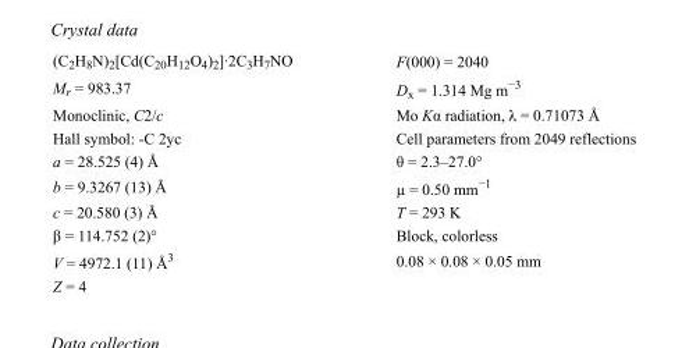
<table><tbody><tr><td>(C<sub>2</sub>H<sub>8</sub>N)<sub>2</sub>[Cd(C<sub>20</sub>H<sub>12</sub>O<sub>4</sub>)<sub>2</sub>]·2C<sub>3</sub>H<sub>7</sub>NO</td><td>F(000) = 2040</td></tr><tr><td>M<sub>r</sub> = 983.37</td><td>D<sub>x</sub> = 1.314 Mg m<sup>−3</sup></td></tr><tr><td>Monoclinic, C2/c</td><td>Mo Kα radiation, λ = 0.71073 Å</td></tr><tr><td>Hall symbol: -C 2yc</td><td>Cell parameters from 2049 reflections</td></tr><tr><td>a = 28.525 (4) Å</td><td>θ = 2.3–27.0°</td></tr><tr><td>b = 9.3267 (13) Å</td><td>µ = 0.50 mm<sup>−1</sup></td></tr><tr><td>c = 20.580 (3) Å</td><td>T = 293 K</td></tr><tr><td>β = 114.752 (2)°</td><td>Block, colorless</td></tr><tr><td>V = 4972.1 (11) Å<sup>3</sup></td><td>0.08 × 0.08 × 0.05 mm</td></tr><tr><td>Z = 4</td><td></td></tr></tbody></table>